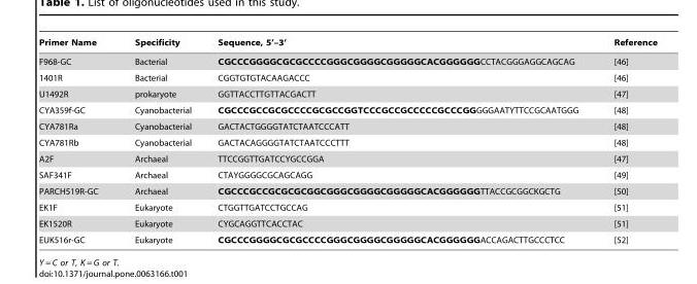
<table><thead><tr><td>Primer Name</td><td>Specificity</td><td>Sequence, 5’–3’</td><td>Reference</td></tr></thead><tbody><tr><td>F968-GC</td><td>Bacterial</td><td>CGCCCGGGGCGCGCCCCGGGCGGGGCGGGGGCACGGGGGGCCTACGGGAGGCAGCAG</td><td>[46]</td></tr><tr><td>1401R</td><td>Bacterial</td><td>CGGTGTGTACAAGACCC</td><td>[46]</td></tr><tr><td>U1492R</td><td>prokaryote</td><td>GGTTACCTTGTTACGACTT</td><td>[47]</td></tr><tr><td>CYA359f-GC</td><td>Cyanobacterial</td><td>CGCCCGCCGCGCCCCGCGCCGGTCCCGCCGCCCCCGCCCGGGGGAATYTTCCGCAATGGG</td><td>[48]</td></tr><tr><td>CYA781Ra</td><td>Cyanobacterial</td><td>GACTACTGGGGTATCTAATCCCATT</td><td>[48]</td></tr><tr><td>CYA781Rb</td><td>Cyanobacterial</td><td>GACTACAGGGGTATCTAATCCCTTT</td><td>[48]</td></tr><tr><td>A2F</td><td>Archaeal</td><td>TTCCGGTTGATCCYGCCGGA</td><td>[47]</td></tr><tr><td>SAF341F</td><td>Archaeal</td><td>CTAYGGGGCGCAGCAGG</td><td>[49]</td></tr><tr><td>PARCH519R-GC</td><td>Archaeal</td><td>CGCCCGCCGCGCGCGGCGGGCGGGGCGGGGGCACGGGGGGTTACCGCGGCKGCTG</td><td>[50]</td></tr><tr><td>EK1F</td><td>Eukaryote</td><td>CTGGTTGATCCTGCCAG</td><td>[51]</td></tr><tr><td>EK1520R</td><td>Eukaryote</td><td>CYGCAGGTTCACCTAC</td><td>[51]</td></tr><tr><td>EUK516r-GC</td><td>Eukaryote</td><td>CGCCCGGGGCGCGCCCCGGGCGGGGCGGGGGCACGGGGGGACCAGACTTGCCCTCC</td><td>[52]</td></tr></tbody></table>